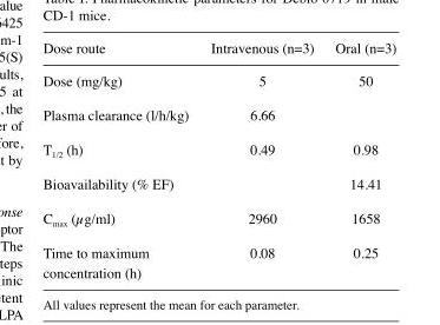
<table><thead><tr><td>Dose route</td><td>Intravenous (n=3)</td><td>Oral (n=3)</td></tr></thead><tbody><tr><td>Dose (mg/kg)</td><td>5</td><td>50</td></tr><tr><td>Plasma clearance (l/h/kg)</td><td>6.66</td><td></td></tr><tr><td>T<sub>1/2</sub> (h)</td><td>0.49</td><td>0.98</td></tr><tr><td>Bioavailability (% EF)</td><td></td><td>14.41</td></tr><tr><td>C<sub>max</sub> (µg/ml)</td><td>2960</td><td>1658</td></tr><tr><td>Time to maximum concentration (h)</td><td>0.08</td><td>0.25</td></tr></tbody></table>